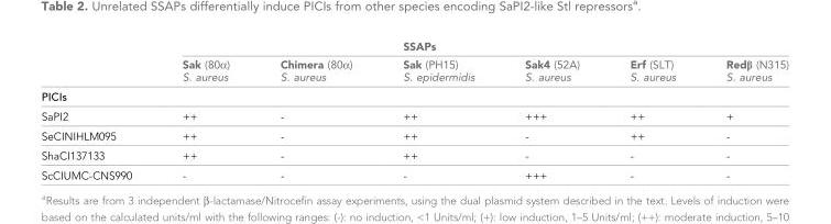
<table><thead><tr><td rowspan="2"></td><td rowspan="2">Sak (80α) S. aureus</td><td rowspan="2">Chimera (80α) S. aureus</td><td colspan="3">SSAPs</td><td rowspan="2">Redβ (N315) S. aureus</td></tr><tr><td>Sak (PH15) S. epidermidis</td><td>Sak4 (52A) S. aureus</td><td>Erf (SLT) S. aureus</td></tr></thead><tbody><tr><td colspan="7">PICIs</td></tr><tr><td>SaPI2</td><td>++</td><td>-</td><td>++</td><td>+++</td><td>++</td><td>+</td></tr><tr><td>SeCINIHLM095</td><td>++</td><td>-</td><td>++</td><td>-</td><td>++</td><td>-</td></tr><tr><td>ShaCI137133</td><td>++</td><td>-</td><td>++</td><td>-</td><td>-</td><td>-</td></tr><tr><td>ScCIUMC-CNS990</td><td>-</td><td>-</td><td>-</td><td>+++</td><td>-</td><td>-</td></tr></tbody></table>